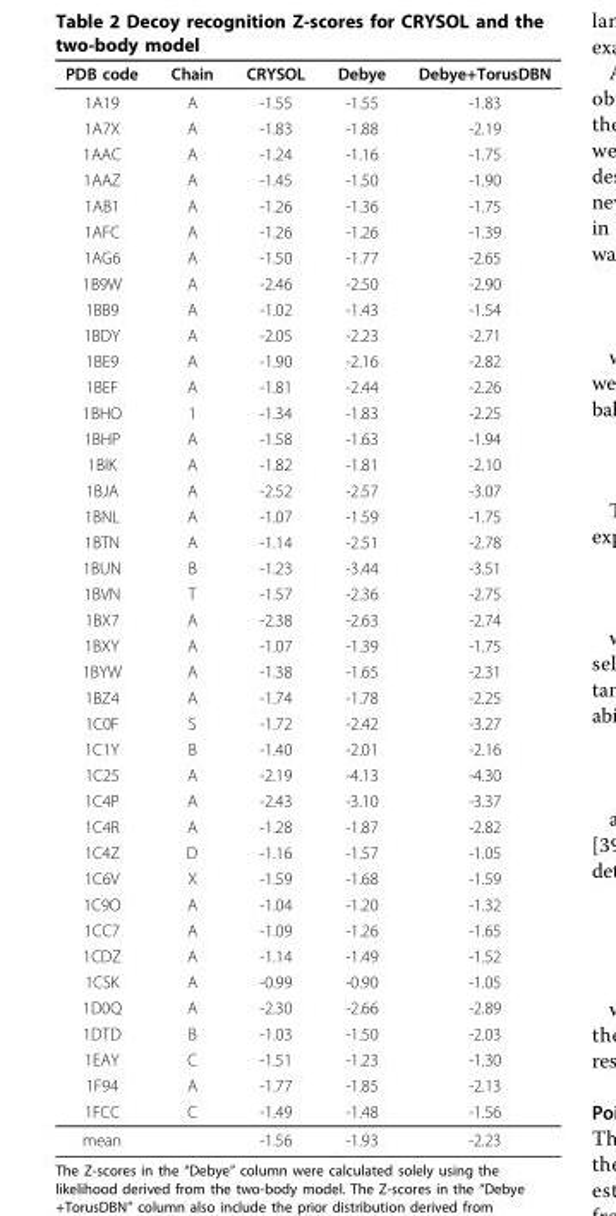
<table><thead><tr><td>PDB code</td><td>Chain</td><td>CRYSOL</td><td>Debye</td><td>Debye+TorusDBN</td></tr></thead><tbody><tr><td>1A19</td><td>A</td><td>-1.55</td><td>-1.55</td><td>-1.83</td></tr><tr><td>1A7X</td><td>A</td><td>-1.83</td><td>-1.88</td><td>-2.19</td></tr><tr><td>1AAC</td><td>A</td><td>-1.24</td><td>-1.16</td><td>-1.75</td></tr><tr><td>1AAZ</td><td>A</td><td>-1.45</td><td>-1.50</td><td>-1.90</td></tr><tr><td>1AB1</td><td>A</td><td>-1.26</td><td>-1.36</td><td>-1.75</td></tr><tr><td>1AFC</td><td>A</td><td>-1.26</td><td>-1.26</td><td>-1.39</td></tr><tr><td>1AG6</td><td>A</td><td>-1.50</td><td>-1.77</td><td>-2.65</td></tr><tr><td>1B9W</td><td>A</td><td>-2.46</td><td>-2.50</td><td>-2.90</td></tr><tr><td>1BB9</td><td>A</td><td>-1.02</td><td>-1.43</td><td>-1.54</td></tr><tr><td>1BDY</td><td>A</td><td>-2.05</td><td>-2.23</td><td>-2.71</td></tr><tr><td>1BE9</td><td>A</td><td>-1.90</td><td>-2.16</td><td>-2.82</td></tr><tr><td>1BEF</td><td>A</td><td>-1.81</td><td>-2.44</td><td>-2.26</td></tr><tr><td>1BHO</td><td>1</td><td>-1.34</td><td>-1.83</td><td>-2.25</td></tr><tr><td>1BHP</td><td>A</td><td>-1.58</td><td>-1.63</td><td>-1.94</td></tr><tr><td>1BIK</td><td>A</td><td>-1.82</td><td>-1.81</td><td>-2.10</td></tr><tr><td>1BJA</td><td>A</td><td>-2.52</td><td>-2.57</td><td>-3.07</td></tr><tr><td>1BNL</td><td>A</td><td>-1.07</td><td>-1.59</td><td>-1.75</td></tr><tr><td>1BTN</td><td>A</td><td>-1.14</td><td>-2.51</td><td>-2.78</td></tr><tr><td>1BUN</td><td>B</td><td>-1.23</td><td>-3.44</td><td>-3.51</td></tr><tr><td>1BVN</td><td>T</td><td>-1.57</td><td>-2.36</td><td>-2.75</td></tr><tr><td>1BX7</td><td>A</td><td>-2.38</td><td>-2.63</td><td>-2.74</td></tr><tr><td>1BXY</td><td>A</td><td>-1.07</td><td>-1.39</td><td>-1.75</td></tr><tr><td>1BYW</td><td>A</td><td>-1.38</td><td>-1.65</td><td>-2.31</td></tr><tr><td>1BZ4</td><td>A</td><td>-1.74</td><td>-1.78</td><td>-2.25</td></tr><tr><td>1C0F</td><td>S</td><td>-1.72</td><td>-2.42</td><td>-3.27</td></tr><tr><td>1C1Y</td><td>B</td><td>-1.40</td><td>-2.01</td><td>-2.16</td></tr><tr><td>1C25</td><td>A</td><td>-2.19</td><td>-4.13</td><td>-4.30</td></tr><tr><td>1C4P</td><td>A</td><td>-2.43</td><td>-3.10</td><td>-3.37</td></tr><tr><td>1C4R</td><td>A</td><td>-1.28</td><td>-1.87</td><td>-2.82</td></tr><tr><td>1C4Z</td><td>D</td><td>-1.16</td><td>-1.57</td><td>-1.05</td></tr><tr><td>1C6V</td><td>X</td><td>-1.59</td><td>-1.68</td><td>-1.59</td></tr><tr><td>1C9O</td><td>A</td><td>-1.04</td><td>-1.20</td><td>-1.32</td></tr><tr><td>1CC7</td><td>A</td><td>-1.09</td><td>-1.26</td><td>-1.65</td></tr><tr><td>1CDZ</td><td>A</td><td>-1.14</td><td>-1.49</td><td>-1.52</td></tr><tr><td>1CSK</td><td>A</td><td>-0.99</td><td>-0.90</td><td>-1.05</td></tr><tr><td>1D0Q</td><td>A</td><td>-2.30</td><td>-2.66</td><td>-2.89</td></tr><tr><td>1DTD</td><td>B</td><td>-1.03</td><td>-1.50</td><td>-2.03</td></tr><tr><td>1EAY</td><td>C</td><td>-1.51</td><td>-1.23</td><td>-1.30</td></tr><tr><td>1F94</td><td>A</td><td>-1.77</td><td>-1.85</td><td>-2.13</td></tr><tr><td>1FCC</td><td>C</td><td>-1.49</td><td>-1.48</td><td>-1.56</td></tr><tr><td>mean</td><td></td><td>-1.56</td><td>-1.93</td><td>-2.23</td></tr></tbody></table>